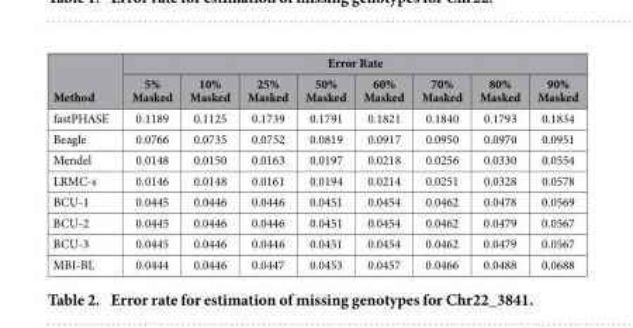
<table><thead><tr><td rowspan="2">Method</td><td colspan="8">Error Rate</td></tr><tr><td>5% Masked</td><td>10% Masked</td><td>25% Masked</td><td>50% Masked</td><td>60% Masked</td><td>70% Masked</td><td>80% Masked</td><td>90% Masked</td></tr></thead><tbody><tr><td>fastPHASE</td><td>0.1189</td><td>0.1125</td><td>0.1739</td><td>0.1791</td><td>0.1821</td><td>0.1840</td><td>0.1793</td><td>0.1834</td></tr><tr><td>Beagle</td><td>0.0766</td><td>0.0735</td><td>0.0752</td><td>0.0819</td><td>0.0917</td><td>0.0950</td><td>0.0970</td><td>0.0951</td></tr><tr><td>Mendel</td><td>0.0148</td><td>0.0150</td><td>0.0163</td><td>0.0197</td><td>0.0218</td><td>0.0256</td><td>0.0330</td><td>0.0554</td></tr><tr><td>LRMC-s</td><td>0.0146</td><td>0.0148</td><td>0.0161</td><td>0.0194</td><td>0.0214</td><td>0.0251</td><td>0.0328</td><td>0.0578</td></tr><tr><td>BCU-1</td><td>0.0445</td><td>0.0446</td><td>0.0446</td><td>0.0451</td><td>0.0454</td><td>0.0462</td><td>0.0478</td><td>0.0569</td></tr><tr><td>BCU-2</td><td>0.0445</td><td>0.0446</td><td>0.0446</td><td>0.0451</td><td>0.0454</td><td>0.0462</td><td>0.0479</td><td>0.0567</td></tr><tr><td>BCU-3</td><td>0.0445</td><td>0.0446</td><td>0.0446</td><td>0.0451</td><td>0.0454</td><td>0.0462</td><td>0.0479</td><td>0.0567</td></tr><tr><td>MBI-BL</td><td>0.0444</td><td>0.0446</td><td>0.0447</td><td>0.0453</td><td>0.0457</td><td>0.0466</td><td>0.0488</td><td>0.0688</td></tr></tbody></table>